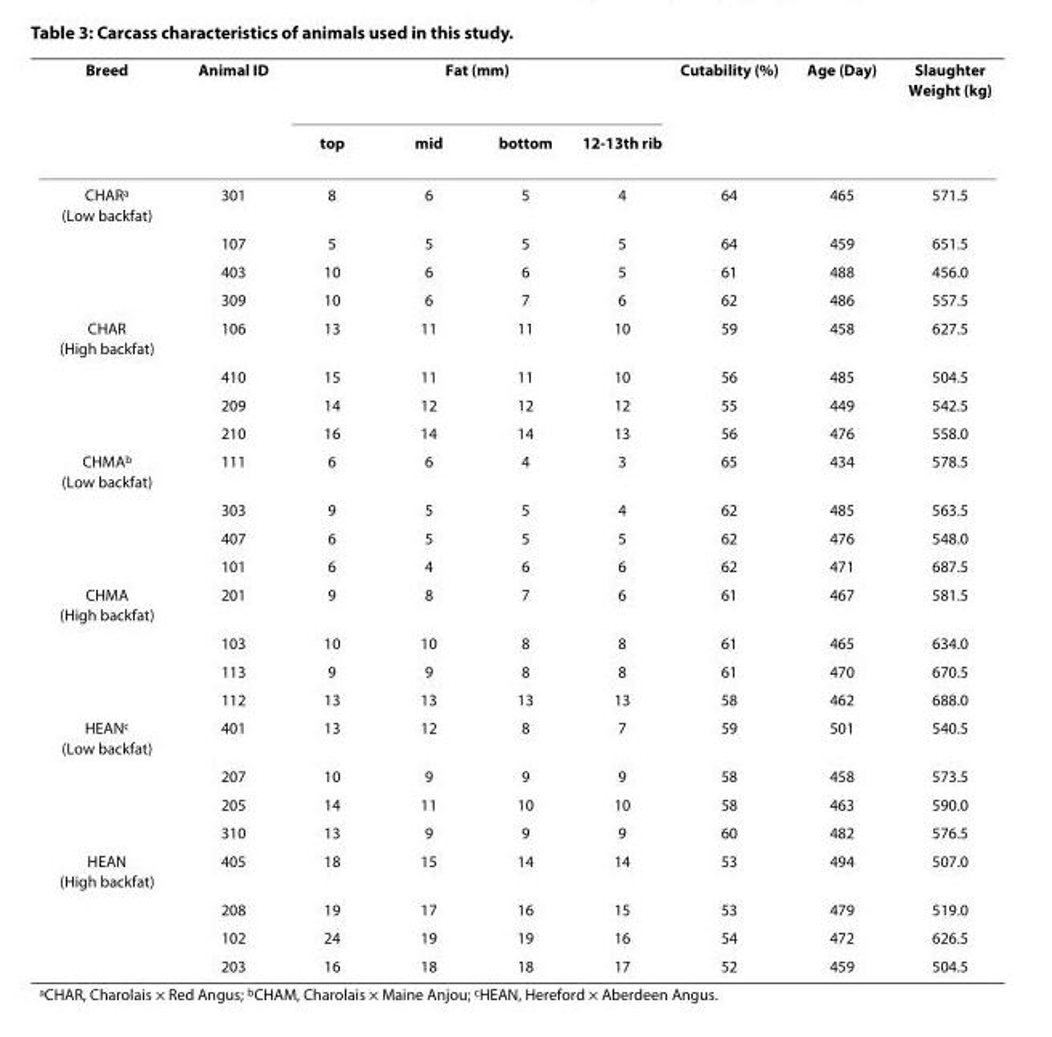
<table><thead><tr><td rowspan="2">Breed</td><td rowspan="2">Animal ID</td><td colspan="4">Fat (mm)</td><td rowspan="2">Cutability (%)</td><td rowspan="2">Age (Day)</td><td rowspan="2">Slaughter Weight (kg)</td></tr><tr><td>top</td><td>mid</td><td>bottom</td><td>12-13th rib</td></tr></thead><tbody><tr><td rowspan="4">CHAR<sup>a</sup> (Low backfat)</td><td>301</td><td>8</td><td>6</td><td>5</td><td>4</td><td>64</td><td>465</td><td>571.5</td></tr><tr><td>107</td><td>5</td><td>5</td><td>5</td><td>5</td><td>64</td><td>459</td><td>651.5</td></tr><tr><td>403</td><td>10</td><td>6</td><td>6</td><td>5</td><td>61</td><td>488</td><td>456.0</td></tr><tr><td>309</td><td>10</td><td>6</td><td>7</td><td>6</td><td>62</td><td>486</td><td>557.5</td></tr><tr><td rowspan="4">CHAR (High backfat)</td><td>106</td><td>13</td><td>11</td><td>11</td><td>10</td><td>59</td><td>458</td><td>627.5</td></tr><tr><td>410</td><td>15</td><td>11</td><td>11</td><td>10</td><td>56</td><td>485</td><td>504.5</td></tr><tr><td>209</td><td>14</td><td>12</td><td>12</td><td>12</td><td>55</td><td>449</td><td>542.5</td></tr><tr><td>210</td><td>16</td><td>14</td><td>14</td><td>13</td><td>56</td><td>476</td><td>558.0</td></tr><tr><td rowspan="4">CHMA<sup>b</sup> (Low backfat)</td><td>111</td><td>6</td><td>6</td><td>4</td><td>3</td><td>65</td><td>434</td><td>578.5</td></tr><tr><td>303</td><td>9</td><td>5</td><td>5</td><td>4</td><td>62</td><td>485</td><td>563.5</td></tr><tr><td>407</td><td>6</td><td>5</td><td>5</td><td>5</td><td>62</td><td>476</td><td>548.0</td></tr><tr><td>101</td><td>6</td><td>4</td><td>6</td><td>6</td><td>62</td><td>471</td><td>687.5</td></tr><tr><td rowspan="4">CHMA (High backfat)</td><td>201</td><td>9</td><td>8</td><td>7</td><td>6</td><td>61</td><td>467</td><td>581.5</td></tr><tr><td>103</td><td>10</td><td>10</td><td>8</td><td>8</td><td>61</td><td>465</td><td>634.0</td></tr><tr><td>113</td><td>9</td><td>9</td><td>8</td><td>8</td><td>61</td><td>470</td><td>670.5</td></tr><tr><td>112</td><td>13</td><td>13</td><td>13</td><td>13</td><td>58</td><td>462</td><td>688.0</td></tr><tr><td rowspan="4">HEAN<sup>c</sup> (Low backfat)</td><td>401</td><td>13</td><td>12</td><td>8</td><td>7</td><td>59</td><td>501</td><td>540.5</td></tr><tr><td>207</td><td>10</td><td>9</td><td>9</td><td>9</td><td>58</td><td>458</td><td>573.5</td></tr><tr><td>205</td><td>14</td><td>11</td><td>10</td><td>10</td><td>58</td><td>463</td><td>590.0</td></tr><tr><td>310</td><td>13</td><td>9</td><td>9</td><td>9</td><td>60</td><td>482</td><td>576.5</td></tr><tr><td rowspan="4">HEAN (High backfat)</td><td>405</td><td>18</td><td>15</td><td>14</td><td>14</td><td>53</td><td>494</td><td>507.0</td></tr><tr><td>208</td><td>19</td><td>17</td><td>16</td><td>15</td><td>53</td><td>479</td><td>519.0</td></tr><tr><td>102</td><td>24</td><td>19</td><td>19</td><td>16</td><td>54</td><td>472</td><td>626.5</td></tr><tr><td>203</td><td>16</td><td>18</td><td>18</td><td>17</td><td>52</td><td>459</td><td>504.5</td></tr></tbody></table>